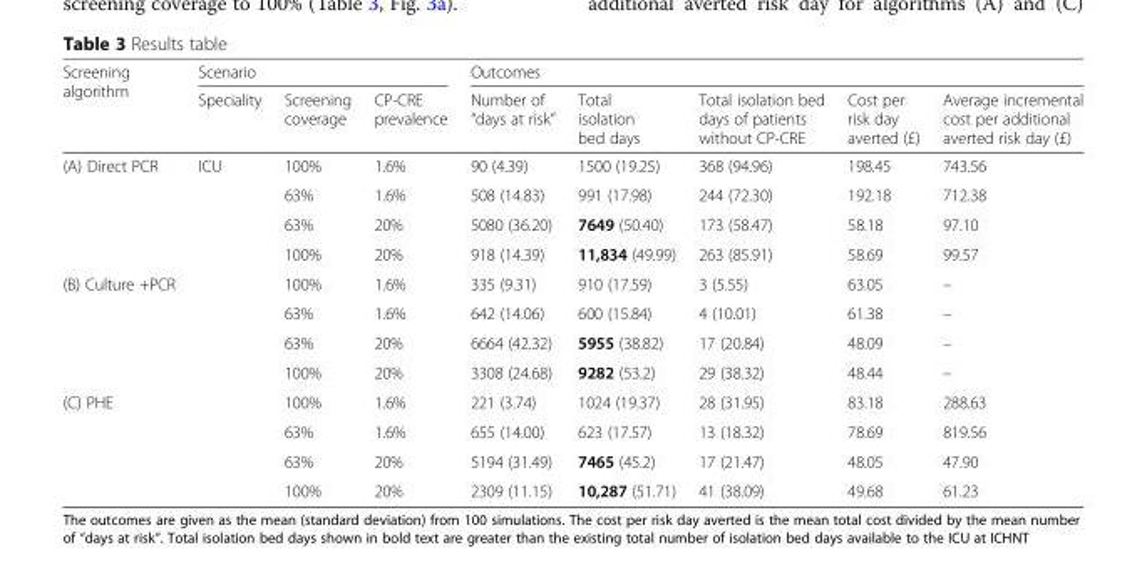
<table><thead><tr><td rowspan="2">Screening algorithm</td><td colspan="3">Scenario</td><td colspan="5">Outcomes</td></tr><tr><td>Speciality</td><td>Screening coverage</td><td>CP-CRE prevalence</td><td>Number of “days at risk”</td><td>Total isolation bed days</td><td>Total isolation bed days of patients without CP-CRE</td><td>Cost per risk day averted (£)</td><td>Average incremental cost per additional averted risk day (£)</td></tr></thead><tbody><tr><td rowspan="4">(A) Direct PCR</td><td rowspan="12">ICU</td><td>100%</td><td>1.6%</td><td>90 (4.39)</td><td>1500 (19.25)</td><td>368 (94.96)</td><td>198.45</td><td>743.56</td></tr><tr><td>63%</td><td>1.6%</td><td>508 (14.83)</td><td>991 (17.98)</td><td>244 (72.30)</td><td>192.18</td><td>712.38</td></tr><tr><td>63%</td><td>20%</td><td>5080 (36.20)</td><td>7649 (50.40)</td><td>173 (58.47)</td><td>58.18</td><td>97.10</td></tr><tr><td>100%</td><td>20%</td><td>918 (14.39)</td><td>11,834 (49.99)</td><td>263 (85.91)</td><td>58.69</td><td>99.57</td></tr><tr><td rowspan="4">(B) Culture +PCR</td><td>100%</td><td>1.6%</td><td>335 (9.31)</td><td>910 (17.59)</td><td>3 (5.55)</td><td>63.05</td><td>–</td></tr><tr><td>63%</td><td>1.6%</td><td>642 (14.06)</td><td>600 (15.84)</td><td>4 (10.01)</td><td>61.38</td><td>–</td></tr><tr><td>63%</td><td>20%</td><td>6664 (42.32)</td><td>5955 (38.82)</td><td>17 (20.84)</td><td>48.09</td><td>–</td></tr><tr><td>100%</td><td>20%</td><td>3308 (24.68)</td><td>9282 (53.2)</td><td>29 (38.32)</td><td>48.44</td><td>–</td></tr><tr><td rowspan="4">(C) PHE</td><td>100%</td><td>1.6%</td><td>221 (3.74)</td><td>1024 (19.37)</td><td>28 (31.95)</td><td>83.18</td><td>288.63</td></tr><tr><td>63%</td><td>1.6%</td><td>655 (14.00)</td><td>623 (17.57)</td><td>13 (18.32)</td><td>78.69</td><td>819.56</td></tr><tr><td>63%</td><td>20%</td><td>5194 (31.49)</td><td>7465 (45.2)</td><td>17 (21.47)</td><td>48.05</td><td>47.90</td></tr><tr><td>100%</td><td>20%</td><td>2309 (11.15)</td><td>10,287 (51.71)</td><td>41 (38.09)</td><td>49.68</td><td>61.23</td></tr></tbody></table>